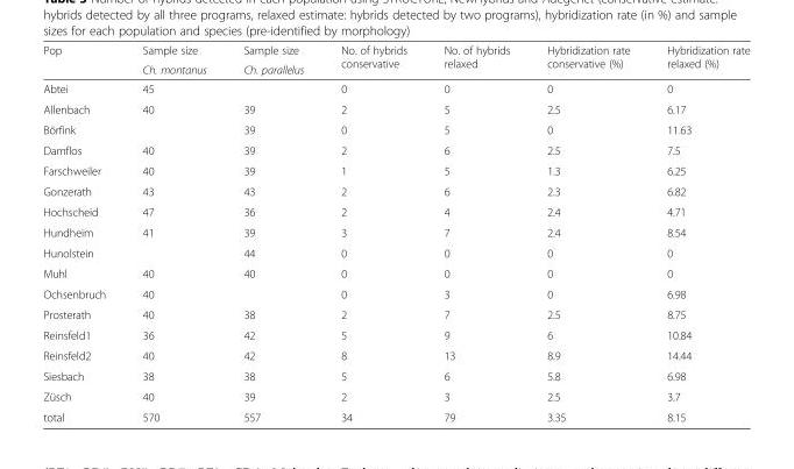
<table><thead><tr><td rowspan="2">Pop</td><td rowspan="2">Sample size Ch. montanus</td><td rowspan="2">Sample size Ch. parallelus</td><td rowspan="2">No. of hybrids conservative</td><td rowspan="2">No. of hybrids relaxed</td><td rowspan="2">Hybridization rate conservative (%)</td><td rowspan="2">Hybridization rate relaxed (%)</td></tr><tr></tr></thead><tbody><tr><td>Abtei</td><td>45</td><td></td><td>0</td><td>0</td><td>0</td><td>0</td></tr><tr><td>Allenbach</td><td>40</td><td>39</td><td>2</td><td>5</td><td>2.5</td><td>6.17</td></tr><tr><td>Börfink</td><td></td><td>39</td><td>0</td><td>5</td><td>0</td><td>11.63</td></tr><tr><td>Damflos</td><td>40</td><td>39</td><td>2</td><td>6</td><td>2.5</td><td>7.5</td></tr><tr><td>Farschweiler</td><td>40</td><td>39</td><td>1</td><td>5</td><td>1.3</td><td>6.25</td></tr><tr><td>Gonzerath</td><td>43</td><td>43</td><td>2</td><td>6</td><td>2.3</td><td>6.82</td></tr><tr><td>Hochscheid</td><td>47</td><td>36</td><td>2</td><td>4</td><td>2.4</td><td>4.71</td></tr><tr><td>Hundheim</td><td>41</td><td>39</td><td>3</td><td>7</td><td>2.4</td><td>8.54</td></tr><tr><td>Hunolstein</td><td></td><td>44</td><td>0</td><td>0</td><td>0</td><td>0</td></tr><tr><td>Muhl</td><td>40</td><td>40</td><td>0</td><td>0</td><td>0</td><td>0</td></tr><tr><td>Ochsenbruch</td><td>40</td><td></td><td>0</td><td>3</td><td>0</td><td>6.98</td></tr><tr><td>Prosterath</td><td>40</td><td>38</td><td>2</td><td>7</td><td>2.5</td><td>8.75</td></tr><tr><td>Reinsfeld1</td><td>36</td><td>42</td><td>5</td><td>9</td><td>6</td><td>10.84</td></tr><tr><td>Reinsfeld2</td><td>40</td><td>42</td><td>8</td><td>13</td><td>8.9</td><td>14.44</td></tr><tr><td>Siesbach</td><td>38</td><td>38</td><td>5</td><td>6</td><td>5.8</td><td>6.98</td></tr><tr><td>Züsch</td><td>40</td><td>39</td><td>2</td><td>3</td><td>2.5</td><td>3.7</td></tr><tr><td>total</td><td>570</td><td>557</td><td>34</td><td>79</td><td>3.35</td><td>8.15</td></tr></tbody></table>